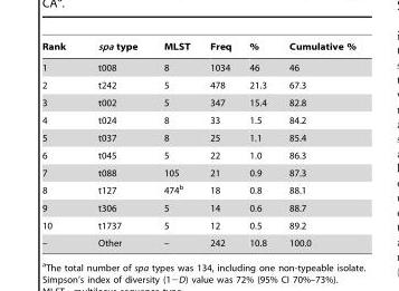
<table><thead><tr><td>Rank</td><td>spa type</td><td>MLST</td><td>Freq</td><td>%</td><td>Cumulative %</td></tr></thead><tbody><tr><td>1</td><td>t008</td><td>8</td><td>1034</td><td>46</td><td>46</td></tr><tr><td>2</td><td>t242</td><td>5</td><td>478</td><td>21.3</td><td>67.3</td></tr><tr><td>3</td><td>t002</td><td>5</td><td>347</td><td>15.4</td><td>82.8</td></tr><tr><td>4</td><td>t024</td><td>8</td><td>33</td><td>1.5</td><td>84.2</td></tr><tr><td>5</td><td>t037</td><td>8</td><td>25</td><td>1.1</td><td>85.4</td></tr><tr><td>6</td><td>t045</td><td>5</td><td>22</td><td>1.0</td><td>86.3</td></tr><tr><td>7</td><td>t088</td><td>105</td><td>21</td><td>0.9</td><td>87.3</td></tr><tr><td>8</td><td>t127</td><td>474<sup>b</sup></td><td>18</td><td>0.8</td><td>88.1</td></tr><tr><td>9</td><td>t306</td><td>5</td><td>14</td><td>0.6</td><td>88.7</td></tr><tr><td>10</td><td>t1737</td><td>5</td><td>12</td><td>0.5</td><td>89.2</td></tr><tr><td>–</td><td>Other</td><td>–</td><td>242</td><td>10.8</td><td>100.0</td></tr></tbody></table>